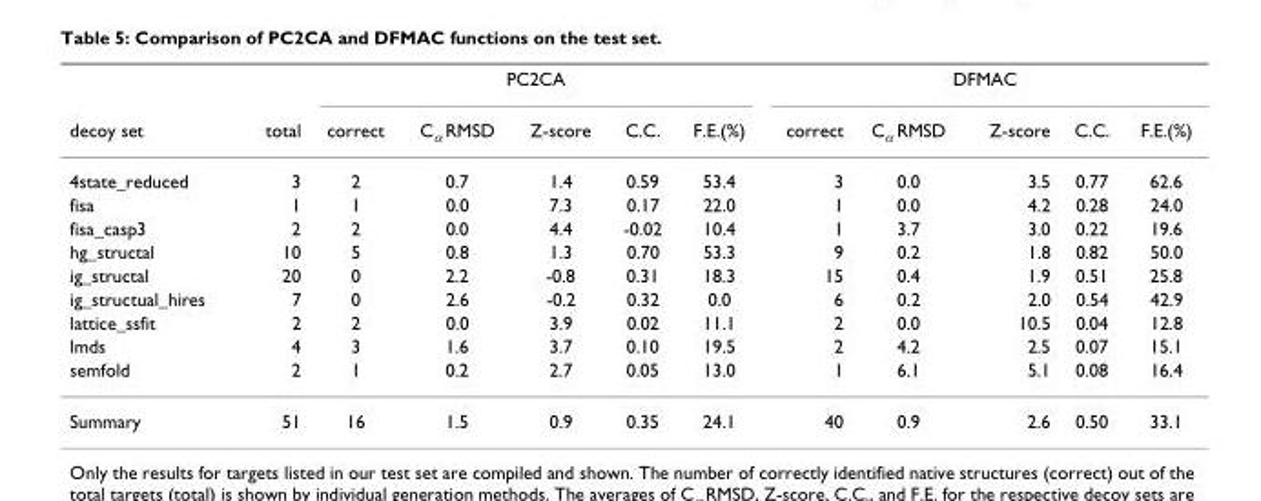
<table><thead><tr><td rowspan="2">decoy set</td><td rowspan="2">total</td><td colspan="5">PC2CA</td><td colspan="5">DFMAC</td></tr><tr><td>correct</td><td>C<sub>α</sub> RMSD</td><td>Z-score</td><td>C.C.</td><td>F.E.(%)</td><td>correct</td><td>C<sub>α</sub> RMSD</td><td>Z-score</td><td>C.C.</td><td>F.E.(%)</td></tr></thead><tbody><tr><td>4state_reduced</td><td>3</td><td>2</td><td>0.7</td><td>1.4</td><td>0.59</td><td>53.4</td><td>3</td><td>0.0</td><td>3.5</td><td>0.77</td><td>62.6</td></tr><tr><td>fisa</td><td>1</td><td>1</td><td>0.0</td><td>7.3</td><td>0.17</td><td>22.0</td><td>1</td><td>0.0</td><td>4.2</td><td>0.28</td><td>24.0</td></tr><tr><td>fisa_casp3</td><td>2</td><td>2</td><td>0.0</td><td>4.4</td><td>-0.02</td><td>10.4</td><td>1</td><td>3.7</td><td>3.0</td><td>0.22</td><td>19.6</td></tr><tr><td>hg_structal</td><td>10</td><td>5</td><td>0.8</td><td>1.3</td><td>0.70</td><td>53.3</td><td>9</td><td>0.2</td><td>1.8</td><td>0.82</td><td>50.0</td></tr><tr><td>ig_structal</td><td>20</td><td>0</td><td>2.2</td><td>-0.8</td><td>0.31</td><td>18.3</td><td>15</td><td>0.4</td><td>1.9</td><td>0.51</td><td>25.8</td></tr><tr><td>ig_structual_hires</td><td>7</td><td>0</td><td>2.6</td><td>-0.2</td><td>0.32</td><td>0.0</td><td>6</td><td>0.2</td><td>2.0</td><td>0.54</td><td>42.9</td></tr><tr><td>lattice_ssfit</td><td>2</td><td>2</td><td>0.0</td><td>3.9</td><td>0.02</td><td>11.1</td><td>2</td><td>0.0</td><td>10.5</td><td>0.04</td><td>12.8</td></tr><tr><td>lmds</td><td>4</td><td>3</td><td>1.6</td><td>3.7</td><td>0.10</td><td>19.5</td><td>2</td><td>4.2</td><td>2.5</td><td>0.07</td><td>15.1</td></tr><tr><td>semfold</td><td>2</td><td>1</td><td>0.2</td><td>2.7</td><td>0.05</td><td>13.0</td><td>1</td><td>6.1</td><td>5.1</td><td>0.08</td><td>16.4</td></tr><tr><td>Summary</td><td>51</td><td>16</td><td>1.5</td><td>0.9</td><td>0.35</td><td>24.1</td><td>40</td><td>0.9</td><td>2.6</td><td>0.50</td><td>33.1</td></tr></tbody></table>